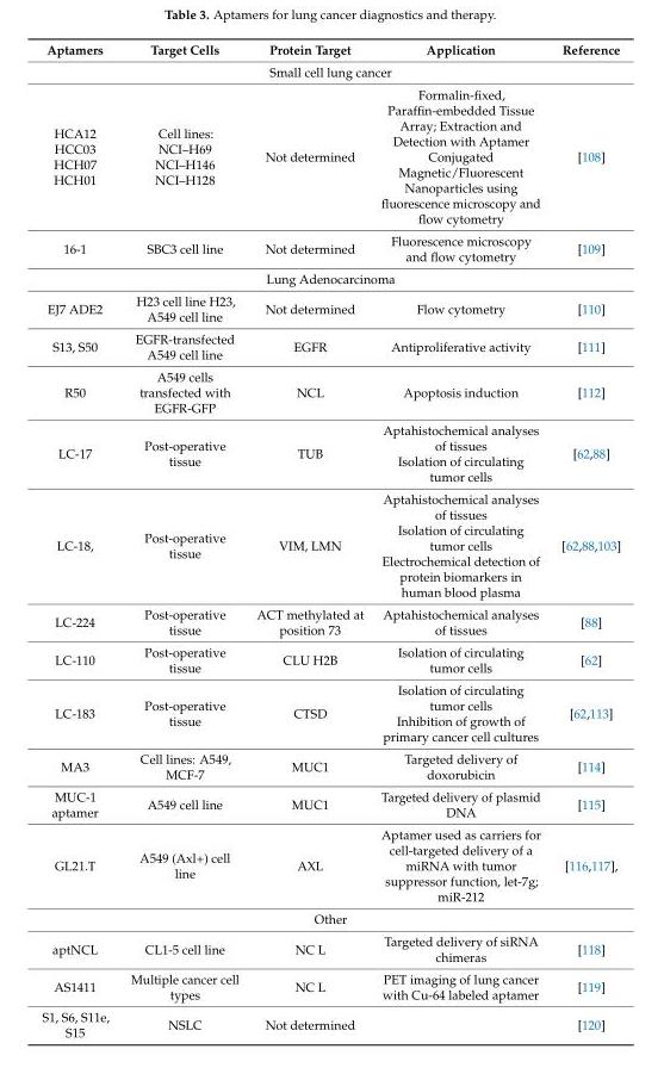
<table><thead><tr><td>Aptamers</td><td>Target Cells</td><td>Protein Target</td><td>Application</td><td>Reference</td></tr></thead><tbody><tr><td colspan="5">Small cell lung cancer</td></tr><tr><td>HCA12 HCC03 HCH07 HCH01</td><td>Cell lines: NCI–H69 NCI–H146 NCI–H128</td><td>Not determined</td><td>Formalin-fixed, Paraffin-embedded Tissue Array; Extraction and Detection with Aptamer Conjugated Magnetic/Fluorescent Nanoparticles using fluorescence microscopy and flow cytometry</td><td>[108]</td></tr><tr><td>16-1</td><td>SBC3 cell line</td><td>Not determined</td><td>Fluorescence microscopy and flow cytometry</td><td>[109]</td></tr><tr><td colspan="5">Lung Adenocarcinoma</td></tr><tr><td>EJ7 ADE2</td><td>H23 cell line H23, A549 cell line</td><td>Not determined</td><td>Flow cytometry</td><td>[110]</td></tr><tr><td>S13, S50</td><td>EGFR-transfected A549 cell line</td><td>EGFR</td><td>Antiproliferative activity</td><td>[111]</td></tr><tr><td>R50</td><td>A549 cells transfected with EGFR-GFP</td><td>NCL</td><td>Apoptosis induction</td><td>[112]</td></tr><tr><td>LC-17</td><td>Post-operative tissue</td><td>TUB</td><td>Aptahistochemical analyses of tissues Isolation of circulating tumor cells</td><td>[62,88]</td></tr><tr><td>LC-18,</td><td>Post-operative tissue</td><td>VIM, LMN</td><td>Aptahistochemical analyses of tissues Isolation of circulating tumor cells Electrochemical detection of protein biomarkers in human blood plasma</td><td>[62,88,103]</td></tr><tr><td>LC-224</td><td>Post-operative tissue</td><td>ACT methylated at position 73</td><td>Aptahistochemical analyses of tissues</td><td>[88]</td></tr><tr><td>LC-110</td><td>Post-operative tissue</td><td>CLU H2B</td><td>Isolation of circulating tumor cells</td><td>[62]</td></tr><tr><td>LC-183</td><td>Post-operative tissue</td><td>CTSD</td><td>Isolation of circulating tumor cells Inhibition of growth of primary cancer cell cultures</td><td>[62,113]</td></tr><tr><td>MA3</td><td>Cell lines: A549, MCF-7</td><td>MUC1</td><td>Targeted delivery of doxorubicin</td><td>[114]</td></tr><tr><td>MUC-1 aptamer</td><td>A549 cell line</td><td>MUC1</td><td>Targeted delivery of plasmid DNA</td><td>[115]</td></tr><tr><td>GL21.T</td><td>A549 (Axl+) cell line</td><td>AXL</td><td>Aptamer used as carriers for cell-targeted delivery of a miRNA with tumor suppressor function, let-7g; miR-212</td><td>[116,117],</td></tr><tr><td colspan="5">Other</td></tr><tr><td>aptNCL</td><td>CL1-5 cell line</td><td>NC L</td><td>Targeted delivery of siRNA chimeras</td><td>[118]</td></tr><tr><td>AS1411</td><td>Multiple cancer cell types</td><td>NC L</td><td>PET imaging of lung cancer with Cu-64 labeled aptamer</td><td>[119]</td></tr><tr><td>S1, S6, S11e, S15</td><td>NSLC</td><td>Not determined</td><td></td><td>[120]</td></tr></tbody></table>